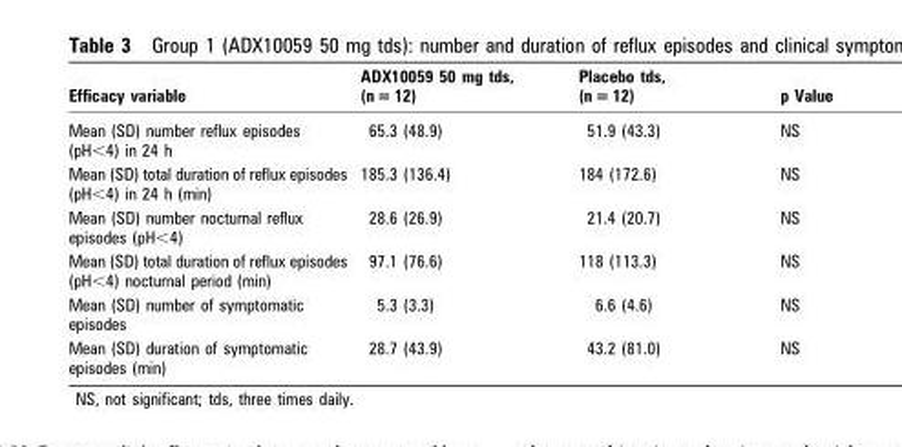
<table><thead><tr><td>Efficacy variable</td><td>ADX10059 50 mg tds, (n = 12)</td><td>Placebo tds, (n = 12)</td><td>p Value</td></tr></thead><tbody><tr><td>Mean (SD) number reflux episodes (pH&lt;4) in 24 h</td><td>65.3 (48.9)</td><td>51.9 (43.3)</td><td>NS</td></tr><tr><td>Mean (SD) total duration of reflux episodes (pH&lt;4) in 24 h (min)</td><td>185.3 (136.4)</td><td>184 (172.6)</td><td>NS</td></tr><tr><td>Mean (SD) number nocturnal reflux episodes (pH&lt;4)</td><td>28.6 (26.9)</td><td>21.4 (20.7)</td><td>NS</td></tr><tr><td>Mean (SD) total duration of reflux episodes (pH&lt;4) nocturnal period (min)</td><td>97.1 (76.6)</td><td>118 (113.3)</td><td>NS</td></tr><tr><td>Mean (SD) number of symptomatic episodes</td><td>5.3 (3.3)</td><td>6.6 (4.6)</td><td>NS</td></tr><tr><td>Mean (SD) duration of symptomatic episodes (min)</td><td>28.7 (43.9)</td><td>43.2 (81.0)</td><td>NS</td></tr></tbody></table>